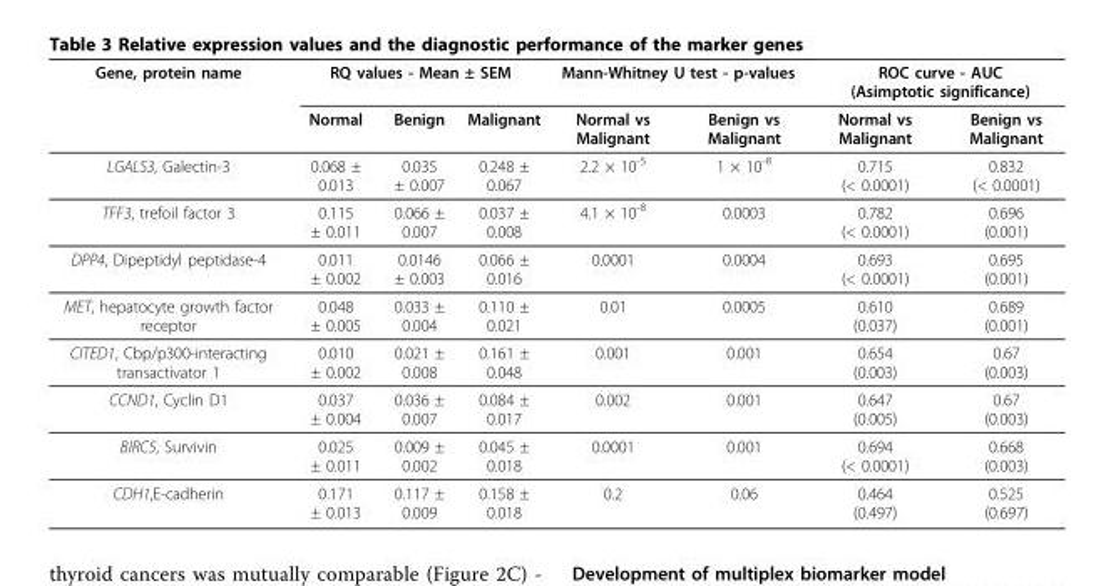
<table><thead><tr><td rowspan="2">Gene, protein name</td><td colspan="3">RQ values - Mean ± SEM</td><td colspan="2">Mann-Whitney U test - p-values</td><td colspan="2">ROC curve - AUC (Asimptotic significance)</td></tr><tr><td>Normal</td><td>Benign</td><td>Malignant</td><td>Normal vs Malignant</td><td>Benign vs Malignant</td><td>Normal vs Malignant</td><td>Benign vs Malignant</td></tr></thead><tbody><tr><td>LGALS3, Galectin-3</td><td>0.068 ± 0.013</td><td>0.035 ± 0.007</td><td>0.248 ± 0.067</td><td>2.2 × 10<sup>-5</sup></td><td>1 × 10<sup>-8</sup></td><td>0.715 (&lt; 0.0001)</td><td>0.832 (&lt; 0.0001)</td></tr><tr><td>TFF3, trefoil factor 3</td><td>0.115 ± 0.011</td><td>0.066 ± 0.007</td><td>0.037 ± 0.008</td><td>4.1 × 10<sup>-8</sup></td><td>0.0003</td><td>0.782 (&lt; 0.0001)</td><td>0.696 (0.001)</td></tr><tr><td>DPP4, Dipeptidyl peptidase-4</td><td>0.011 ± 0.002</td><td>0.0146 ± 0.003</td><td>0.066 ± 0.016</td><td>0.0001</td><td>0.0004</td><td>0.693 (&lt; 0.0001)</td><td>0.695 (0.001)</td></tr><tr><td>MET, hepatocyte growth factor receptor</td><td>0.048 ± 0.005</td><td>0.033 ± 0.004</td><td>0.110 ± 0.021</td><td>0.01</td><td>0.0005</td><td>0.610 (0.037)</td><td>0.689 (0.001)</td></tr><tr><td>CITED1, Cbp/p300-interacting transactivator 1</td><td>0.010 ± 0.002</td><td>0.021 ± 0.008</td><td>0.161 ± 0.048</td><td>0.001</td><td>0.001</td><td>0.654 (0.003)</td><td>0.67 (0.003)</td></tr><tr><td>CCND1, Cyclin D1</td><td>0.037 ± 0.004</td><td>0.036 ± 0.007</td><td>0.084 ± 0.017</td><td>0.002</td><td>0.001</td><td>0.647 (0.005)</td><td>0.67 (0.003)</td></tr><tr><td>BIRC5, Survivin</td><td>0.025 ± 0.011</td><td>0.009 ± 0.002</td><td>0.045 ± 0.018</td><td>0.0001</td><td>0.001</td><td>0.694 (&lt; 0.0001)</td><td>0.668 (0.003)</td></tr><tr><td>CDH1,E-cadherin</td><td>0.171 ± 0.013</td><td>0.117 ± 0.009</td><td>0.158 ± 0.018</td><td>0.2</td><td>0.06</td><td>0.464 (0.497)</td><td>0.525 (0.697)</td></tr></tbody></table>